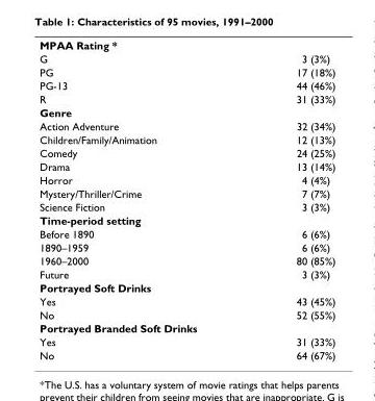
<table><tbody><tr><td colspan="2">MPAA Rating *</td></tr><tr><td>G</td><td>3 (3%)</td></tr><tr><td>PG</td><td>17 (18%)</td></tr><tr><td>PG-13</td><td>44 (46%)</td></tr><tr><td>R</td><td>31 (33%)</td></tr><tr><td colspan="2">Genre</td></tr><tr><td>Action Adventure</td><td>32 (34%)</td></tr><tr><td>Children/Family/Animation</td><td>12 (13%)</td></tr><tr><td>Comedy</td><td>24 (25%)</td></tr><tr><td>Drama</td><td>13 (14%)</td></tr><tr><td>Horror</td><td>4 (4%)</td></tr><tr><td>Mystery/Thriller/Crime</td><td>7 (7%)</td></tr><tr><td>Science Fiction</td><td>3 (3%)</td></tr><tr><td colspan="2">Time-period setting</td></tr><tr><td>Before 1890</td><td>6 (6%)</td></tr><tr><td>1890–1959</td><td>6 (6%)</td></tr><tr><td>1960–2000</td><td>80 (85%)</td></tr><tr><td>Future</td><td>3 (3%)</td></tr><tr><td colspan="2">Portrayed Soft Drinks</td></tr><tr><td>Yes</td><td>43 (45%)</td></tr><tr><td>No</td><td>52 (55%)</td></tr><tr><td colspan="2">Portrayed Branded Soft Drinks</td></tr><tr><td>Yes</td><td>31 (33%)</td></tr><tr><td>No</td><td>64 (67%)</td></tr></tbody></table>